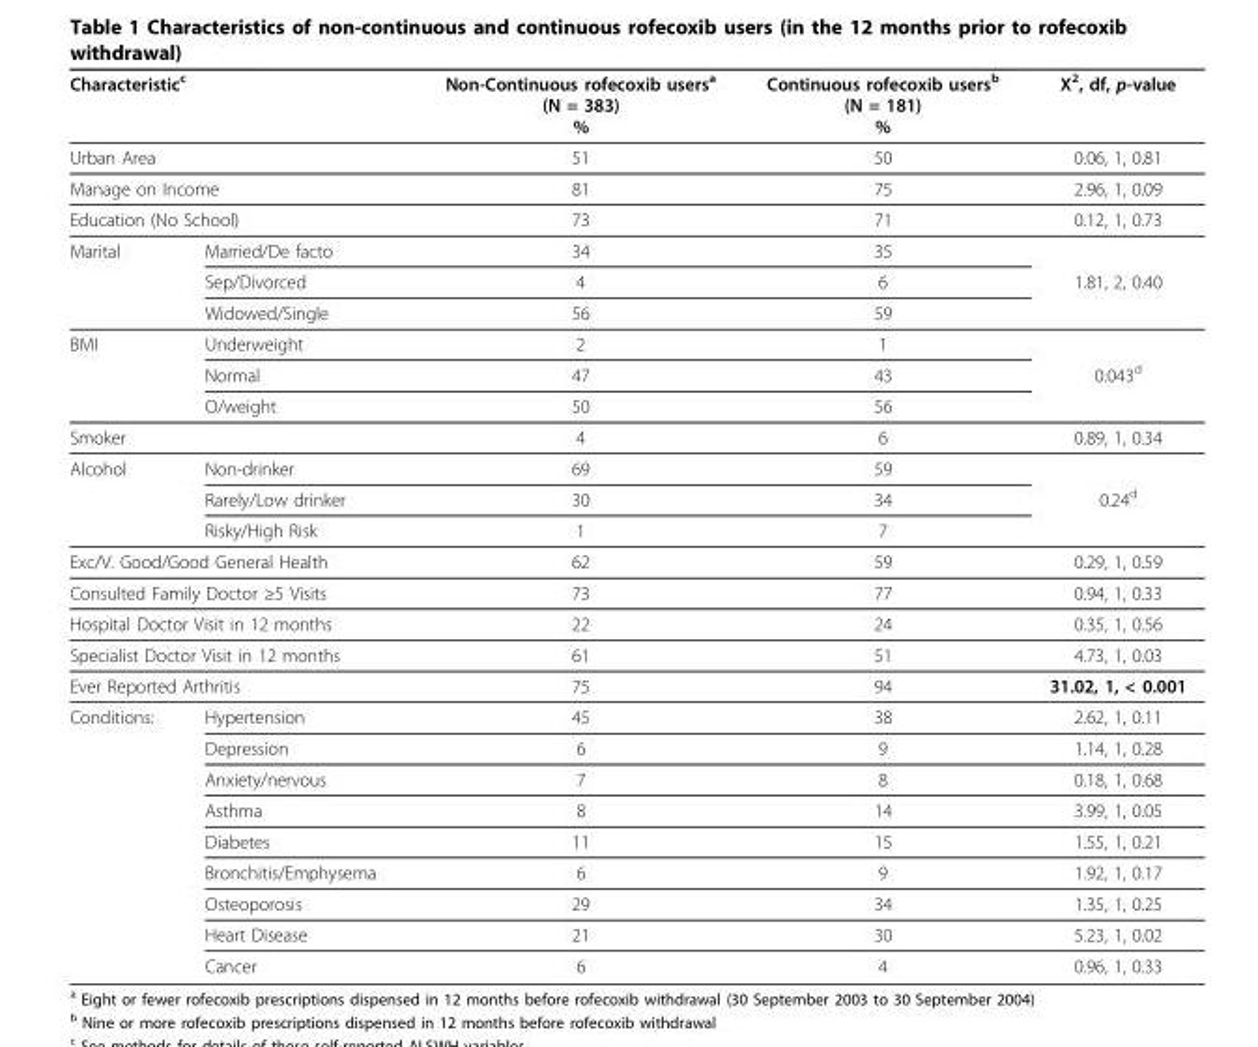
<table><thead><tr><td colspan="2">Characteristic<sup>c</sup></td><td>Non-Continuous rofecoxib users<sup>a</sup> (N = 383) %</td><td>Continuous rofecoxib users<sup>b</sup> (N = 181) %</td><td>Χ<sup>2</sup>, df, p-value</td></tr></thead><tbody><tr><td colspan="2">Urban Area</td><td>51</td><td>50</td><td>0.06, 1, 0.81</td></tr><tr><td colspan="2">Manage on Income</td><td>81</td><td>75</td><td>2.96, 1, 0.09</td></tr><tr><td colspan="2">Education (No School)</td><td>73</td><td>71</td><td>0.12, 1, 0.73</td></tr><tr><td rowspan="3">Marital</td><td>Married/De facto</td><td>34</td><td>35</td><td></td></tr><tr><td>Sep/Divorced</td><td>4</td><td>6</td><td>1.81, 2, 0.40</td></tr><tr><td>Widowed/Single</td><td>56</td><td>59</td><td></td></tr><tr><td rowspan="3">BMI</td><td>Underweight</td><td>2</td><td>1</td><td></td></tr><tr><td>Normal</td><td>47</td><td>43</td><td>0.043<sup>d</sup></td></tr><tr><td>O/weight</td><td>50</td><td>56</td><td></td></tr><tr><td colspan="2">Smoker</td><td>4</td><td>6</td><td>0.89, 1, 0.34</td></tr><tr><td rowspan="3">Alcohol</td><td>Non-drinker</td><td>69</td><td>59</td><td></td></tr><tr><td>Rarely/Low drinker</td><td>30</td><td>34</td><td>0.24<sup>d</sup></td></tr><tr><td>Risky/High Risk</td><td>1</td><td>7</td><td></td></tr><tr><td colspan="2">Exc/V. Good/Good General Health</td><td>62</td><td>59</td><td>0.29, 1, 0.59</td></tr><tr><td colspan="2">Consulted Family Doctor ≥5 Visits</td><td>73</td><td>77</td><td>0.94, 1, 0.33</td></tr><tr><td colspan="2">Hospital Doctor Visit in 12 months</td><td>22</td><td>24</td><td>0.35, 1, 0.56</td></tr><tr><td colspan="2">Specialist Doctor Visit in 12 months</td><td>61</td><td>51</td><td>4.73, 1, 0.03</td></tr><tr><td colspan="2">Ever Reported Arthritis</td><td>75</td><td>94</td><td>31.02, 1, &lt; 0.001</td></tr><tr><td rowspan="9">Conditions:</td><td>Hypertension</td><td>45</td><td>38</td><td>2.62, 1, 0.11</td></tr><tr><td>Depression</td><td>6</td><td>9</td><td>1.14, 1, 0.28</td></tr><tr><td>Anxiety/nervous</td><td>7</td><td>8</td><td>0.18, 1, 0.68</td></tr><tr><td>Asthma</td><td>8</td><td>14</td><td>3.99, 1, 0.05</td></tr><tr><td>Diabetes</td><td>11</td><td>15</td><td>1.55, 1, 0.21</td></tr><tr><td>Bronchitis/Emphysema</td><td>6</td><td>9</td><td>1.92, 1, 0.17</td></tr><tr><td>Osteoporosis</td><td>29</td><td>34</td><td>1.35, 1, 0.25</td></tr><tr><td>Heart Disease</td><td>21</td><td>30</td><td>5.23, 1, 0.02</td></tr><tr><td>Cancer</td><td>6</td><td>4</td><td>0.96, 1, 0.33</td></tr></tbody></table>